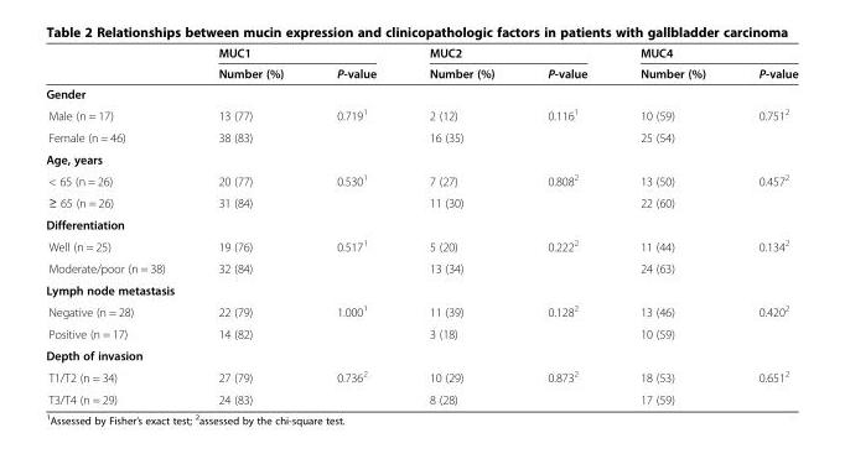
<table><thead><tr><td rowspan="2"></td><td colspan="2">MUC1</td><td colspan="2">MUC2</td><td colspan="2">MUC4</td></tr><tr><td>Number (%)</td><td>P-value</td><td>Number (%)</td><td>P-value</td><td>Number (%)</td><td>P-value</td></tr></thead><tbody><tr><td colspan="7">Gender</td></tr><tr><td>Male (n = 17)</td><td>13 (77)</td><td>0.719<sup>1</sup></td><td>2 (12)</td><td>0.116<sup>1</sup></td><td>10 (59)</td><td>0.751<sup>2</sup></td></tr><tr><td>Female (n = 46)</td><td>38 (83)</td><td></td><td>16 (35)</td><td></td><td>25 (54)</td><td></td></tr><tr><td colspan="7">Age, years</td></tr><tr><td>&lt; 65 (n = 26)</td><td>20 (77)</td><td>0.530<sup>1</sup></td><td>7 (27)</td><td>0.808<sup>2</sup></td><td>13 (50)</td><td>0.457<sup>2</sup></td></tr><tr><td>≥ 65 (n = 26)</td><td>31 (84)</td><td></td><td>11 (30)</td><td></td><td>22 (60)</td><td></td></tr><tr><td colspan="7">Differentiation</td></tr><tr><td>Well (n = 25)</td><td>19 (76)</td><td>0.517<sup>1</sup></td><td>5 (20)</td><td>0.222<sup>2</sup></td><td>11 (44)</td><td>0.134<sup>2</sup></td></tr><tr><td>Moderate/poor (n = 38)</td><td>32 (84)</td><td></td><td>13 (34)</td><td></td><td>24 (63)</td><td></td></tr><tr><td colspan="7">Lymph node metastasis</td></tr><tr><td>Negative (n = 28)</td><td>22 (79)</td><td>1.000<sup>1</sup></td><td>11 (39)</td><td>0.128<sup>2</sup></td><td>13 (46)</td><td>0.420<sup>2</sup></td></tr><tr><td>Positive (n = 17)</td><td>14 (82)</td><td></td><td>3 (18)</td><td></td><td>10 (59)</td><td></td></tr><tr><td colspan="7">Depth of invasion</td></tr><tr><td>T1/T2 (n = 34)</td><td>27 (79)</td><td>0.736<sup>2</sup></td><td>10 (29)</td><td>0.873<sup>2</sup></td><td>18 (53)</td><td>0.651<sup>2</sup></td></tr><tr><td>T3/T4 (n = 29)</td><td>24 (83)</td><td></td><td>8 (28)</td><td></td><td>17 (59)</td><td></td></tr></tbody></table>